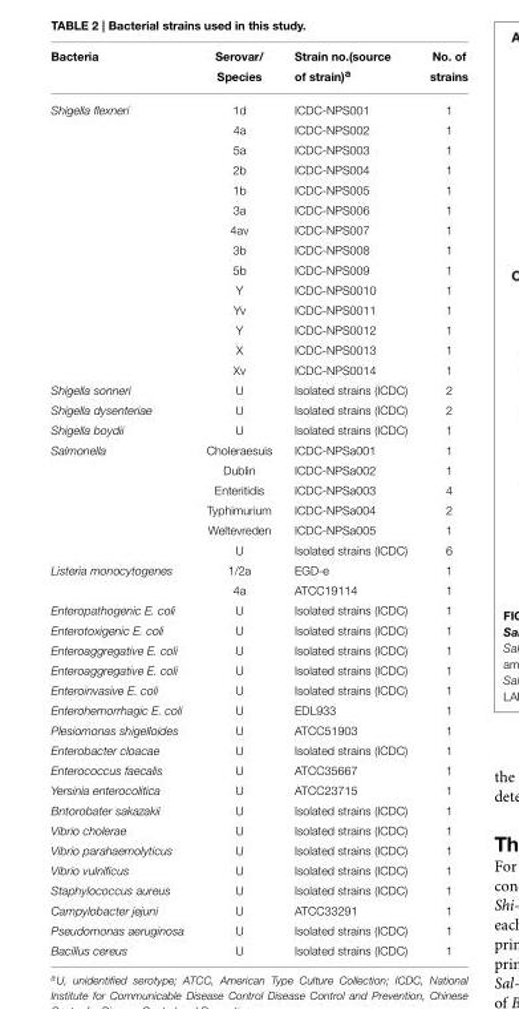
<table><thead><tr><td>Bacteria</td><td>Serovar/ Species</td><td>Strain no.(source of strain)<sup>a</sup></td><td>No. of strains</td></tr></thead><tbody><tr><td rowspan="14">Shigella flexneri</td><td>1d</td><td>ICDC-NPS001</td><td>1</td></tr><tr><td>4a</td><td>ICDC-NPS002</td><td>1</td></tr><tr><td>5a</td><td>ICDC-NPS003</td><td>1</td></tr><tr><td>2b</td><td>ICDC-NPS004</td><td>1</td></tr><tr><td>1b</td><td>ICDC-NPS005</td><td>1</td></tr><tr><td>3a</td><td>ICDC-NPS006</td><td>1</td></tr><tr><td>4av</td><td>ICDC-NPS007</td><td>1</td></tr><tr><td>3b</td><td>ICDC-NPS008</td><td>1</td></tr><tr><td>5b</td><td>ICDC-NPS009</td><td>1</td></tr><tr><td>Y</td><td>ICDC-NPS0010</td><td>1</td></tr><tr><td>Yv</td><td>ICDC-NPS0011</td><td>1</td></tr><tr><td>Y</td><td>ICDC-NPS0012</td><td>1</td></tr><tr><td>X</td><td>ICDC-NPS0013</td><td>1</td></tr><tr><td>Xv</td><td>ICDC-NPS0014</td><td>1</td></tr><tr><td>Shigella sonneri</td><td>U</td><td>Isolated strains (ICDC)</td><td>2</td></tr><tr><td>Shigella dysenteriae</td><td>U</td><td>Isolated strains (ICDC)</td><td>2</td></tr><tr><td>Shigella boydii</td><td>U</td><td>Isolated strains (ICDC)</td><td>1</td></tr><tr><td rowspan="6">Salmonella</td><td>Choleraesuis</td><td>ICDC-NPSa001</td><td>1</td></tr><tr><td>Dublin</td><td>ICDC-NPSa002</td><td>1</td></tr><tr><td>Enteritidis</td><td>ICDC-NPSa003</td><td>4</td></tr><tr><td>Typhimurium</td><td>ICDC-NPSa004</td><td>2</td></tr><tr><td>Weltevreden</td><td>ICDC-NPSa005</td><td>1</td></tr><tr><td>U</td><td>Isolated strains (ICDC)</td><td>6</td></tr><tr><td rowspan="2">Listeria monocytogenes</td><td>1/2a</td><td>EGD-e</td><td>1</td></tr><tr><td>4a</td><td>ATCC19114</td><td>1</td></tr><tr><td>Enteropathogenic E. coli</td><td>U</td><td>Isolated strains (ICDC)</td><td>1</td></tr><tr><td>Enterotoxigenic E. coli</td><td>U</td><td>Isolated strains (ICDC)</td><td>1</td></tr><tr><td>Enteroaggregative E. coli</td><td>U</td><td>Isolated strains (ICDC)</td><td>1</td></tr><tr><td>Enteroaggregative E. coli</td><td>U</td><td>Isolated strains (ICDC)</td><td>1</td></tr><tr><td>Enteroinvasive E. coli</td><td>U</td><td>Isolated strains (ICDC)</td><td>1</td></tr><tr><td>Enterohemorrhagic E. coli</td><td>U</td><td>EDL933</td><td>1</td></tr><tr><td>Plesiomonas shigelloides</td><td>U</td><td>ATCC51903</td><td>1</td></tr><tr><td>Enterobacter cloacae</td><td>U</td><td>Isolated strains (ICDC)</td><td>1</td></tr><tr><td>Enterococcus faecalis</td><td>U</td><td>ATCC35667</td><td>1</td></tr><tr><td>Yersinia enterocolitica</td><td>U</td><td>ATCC23715</td><td>1</td></tr><tr><td>Bntorobater sakazakii</td><td>U</td><td>Isolated strains (ICDC)</td><td>1</td></tr><tr><td>Vibrio cholerae</td><td>U</td><td>Isolated strains (ICDC)</td><td>1</td></tr><tr><td>Vibrio parahaemolyticus</td><td>U</td><td>Isolated strains (ICDC)</td><td>1</td></tr><tr><td>Vibrio vulnificus</td><td>U</td><td>Isolated strains (ICDC)</td><td>1</td></tr><tr><td>Staphylococcus aureus</td><td>U</td><td>Isolated strains (ICDC)</td><td>1</td></tr><tr><td>Campylobacter jejuni</td><td>U</td><td>ATCC33291</td><td>1</td></tr><tr><td>Pseudomonas aeruginosa</td><td>U</td><td>Isolated strains (ICDC)</td><td>1</td></tr><tr><td>Bacillus cereus</td><td>U</td><td>Isolated strains (ICDC)</td><td>1</td></tr></tbody></table>